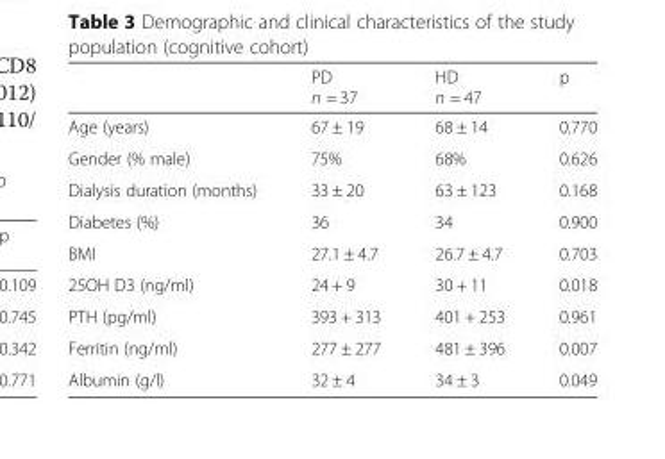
<table><thead><tr><td></td><td>PD n = 37</td><td>HD n = 47</td><td>p</td></tr></thead><tbody><tr><td>Age (years)</td><td>67 ± 19</td><td>68 ± 14</td><td>0.770</td></tr><tr><td>Gender (% male)</td><td>75%</td><td>68%</td><td>0.626</td></tr><tr><td>Dialysis duration (months)</td><td>33 ± 20</td><td>63 ± 123</td><td>0.168</td></tr><tr><td>Diabetes (%)</td><td>36</td><td>34</td><td>0.900</td></tr><tr><td>BMI</td><td>27.1 ± 4.7</td><td>26.7 ± 4.7</td><td>0.703</td></tr><tr><td>25OH D3 (ng/ml)</td><td>24 + 9</td><td>30 + 11</td><td>0.018</td></tr><tr><td>PTH (pg/ml)</td><td>393 + 313</td><td>401 + 253</td><td>0.961</td></tr><tr><td>Ferritin (ng/ml)</td><td>277 ± 277</td><td>481 ± 396</td><td>0.007</td></tr><tr><td>Albumin (g/l)</td><td>32 ± 4</td><td>34 ± 3</td><td>0.049</td></tr></tbody></table>